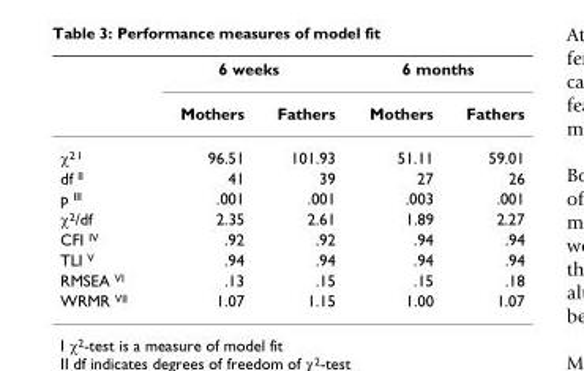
<table><thead><tr><td rowspan="2"></td><td colspan="2">6 weeks</td><td colspan="2">6 months</td></tr><tr><td>Mothers</td><td>Fathers</td><td>Mothers</td><td>Fathers</td></tr></thead><tbody><tr><td>χ<sup>2 I</sup></td><td>96.51</td><td>101.93</td><td>51.11</td><td>59.01</td></tr><tr><td>df <sup>II</sup></td><td>41</td><td>39</td><td>27</td><td>26</td></tr><tr><td>p <sup>III</sup></td><td>.001</td><td>.001</td><td>.003</td><td>.001</td></tr><tr><td>χ<sup>2</sup>/df</td><td>2.35</td><td>2.61</td><td>1.89</td><td>2.27</td></tr><tr><td>CFI <sup>IV</sup></td><td>.92</td><td>.92</td><td>.94</td><td>.94</td></tr><tr><td>TLI <sup>V</sup></td><td>.94</td><td>.94</td><td>.94</td><td>.94</td></tr><tr><td>RMSEA <sup>VI</sup></td><td>.13</td><td>.15</td><td>.15</td><td>.18</td></tr><tr><td>WRMR <sup>VII</sup></td><td>1.07</td><td>1.15</td><td>1.00</td><td>1.07</td></tr></tbody></table>